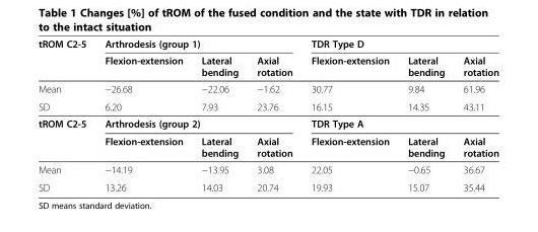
<table><thead><tr><td rowspan="2">tROM C2-5</td><td colspan="3">Arthrodesis (group 1)</td><td colspan="3">TDR Type D</td></tr><tr><td>Flexion-extension</td><td>Lateral bending</td><td>Axial rotation</td><td>Flexion-extension</td><td>Lateral bending</td><td>Axial rotation</td></tr></thead><tbody><tr><td>Mean</td><td>−26.68</td><td>−22.06</td><td>−1.62</td><td>30.77</td><td>9.84</td><td>61.96</td></tr><tr><td>SD</td><td>6.20</td><td>7.93</td><td>23.76</td><td>16.15</td><td>14.35</td><td>43.11</td></tr><tr><td rowspan="2">tROM C2-5</td><td colspan="3">Arthrodesis (group 2)</td><td colspan="3">TDR Type A</td></tr><tr><td>Flexion-extension</td><td>Lateral bending</td><td>Axial rotation</td><td>Flexion-extension</td><td>Lateral bending</td><td>Axial rotation</td></tr><tr><td>Mean</td><td>−14.19</td><td>−13.95</td><td>3.08</td><td>22.05</td><td>−0.65</td><td>36.67</td></tr><tr><td>SD</td><td>13.26</td><td>14.03</td><td>20.74</td><td>19.93</td><td>15.07</td><td>35.44</td></tr></tbody></table>